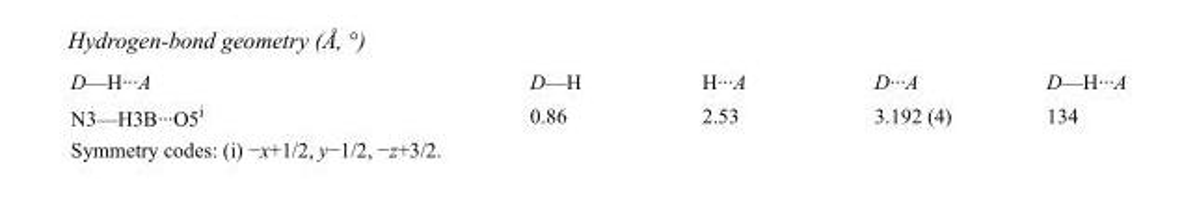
<table><tbody><tr><td>D—H···A</td><td>D—H</td><td>H···A</td><td>D···A</td><td>D—H···A</td></tr><tr><td>N3—H3B···O5<sup>i</sup></td><td>0.86</td><td>2.53</td><td>3.192 (4)</td><td>134</td></tr></tbody></table>